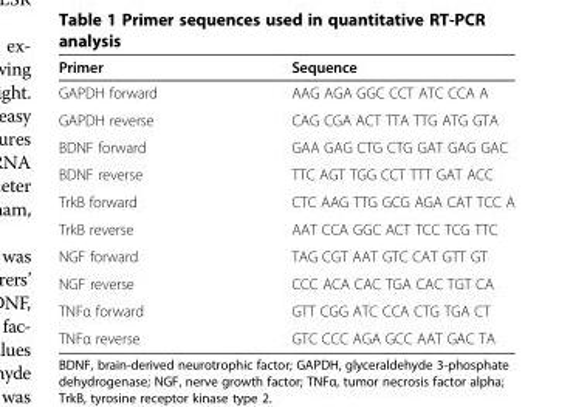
<table><thead><tr><td>Primer</td><td>Sequence</td></tr></thead><tbody><tr><td>GAPDH forward</td><td>AAG AGA GGC CCT ATC CCA A</td></tr><tr><td>GAPDH reverse</td><td>CAG CGA ACT TTA TTG ATG GTA</td></tr><tr><td>BDNF forward</td><td>GAA GAG CTG CTG GAT GAG GAC</td></tr><tr><td>BDNF reverse</td><td>TTC AGT TGG CCT TTT GAT ACC</td></tr><tr><td>TrkB forward</td><td>CTC AAG TTG GCG AGA CAT TCC A</td></tr><tr><td>TrkB reverse</td><td>AAT CCA GGC ACT TCC TCG TTC</td></tr><tr><td>NGF forward</td><td>TAG CGT AAT GTC CAT GTT GT</td></tr><tr><td>NGF reverse</td><td>CCC ACA CAC TGA CAC TGT CA</td></tr><tr><td>TNFα forward</td><td>GTT CGG ATC CCA CTG TGA CT</td></tr><tr><td>TNFα reverse</td><td>GTC CCC AGA GCC AAT GAC TA</td></tr></tbody></table>